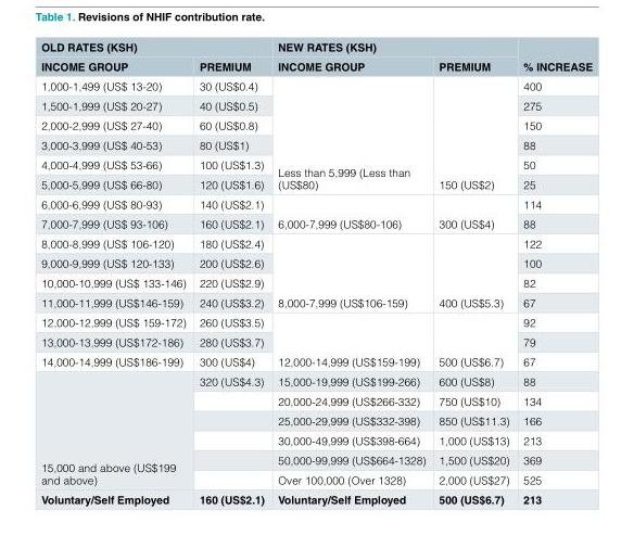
<table><thead><tr><td colspan="2">OLD RATES (KSH)</td><td colspan="2">NEW RATES (KSH)</td><td rowspan="2">% INCREASE</td></tr><tr><td>INCOME GROUP</td><td>PREMIUM</td><td>INCOME GROUP</td><td>PREMIUM</td></tr></thead><tbody><tr><td>1,000-1,499 (US$ 13-20)</td><td>30 (US$0.4)</td><td rowspan="6">Less than 5,999 (Less than (US$80)</td><td rowspan="6">150 (US$2)</td><td>400</td></tr><tr><td>1,500-1,999 (US$ 20-27)</td><td>40 (US$0.5)</td><td>275</td></tr><tr><td>2,000-2,999 (US$ 27-40)</td><td>60 (US$0.8)</td><td>150</td></tr><tr><td>3,000-3,999 (US$ 40-53)</td><td>80 (US$1)</td><td>88</td></tr><tr><td>4,000-4,999 (US$ 53-66)</td><td>100 (US$1.3)</td><td>50</td></tr><tr><td>5,000-5,999 (US$ 66-80)</td><td>120 (US$1.6)</td><td>25</td></tr><tr><td>6,000-6,999 (US$ 80-93)</td><td>140 (US$2.1)</td><td rowspan="2">6,000-7,999 (US$80-106)</td><td rowspan="2">300 (US$4)</td><td>114</td></tr><tr><td>7,000-7,999 (US$ 93-106)</td><td>160 (US$2.1)</td><td>88</td></tr><tr><td>8,000-8,999 (US$ 106-120)</td><td>180 (US$2.4)</td><td rowspan="4">8,000-7,999 (US$106-159)</td><td rowspan="4">400 (US$5.3)</td><td>122</td></tr><tr><td>9,000-9,999 (US$ 120-133)</td><td>200 (US$2.6)</td><td>100</td></tr><tr><td>10,000-10,999 (US$ 133-146)</td><td>220 (US$2.9)</td><td>82</td></tr><tr><td>11,000-11,999 (US$146-159)</td><td>240 (US$3.2)</td><td>67</td></tr><tr><td>12,000-12,999 (US$ 159-172)</td><td>260 (US$3.5)</td><td rowspan="3">12,000-14,999 (US$159-199)</td><td rowspan="3">500 (US$6.7)</td><td>92</td></tr><tr><td>13,000-13,999 (US$172-186)</td><td>280 (US$3.7)</td><td>79</td></tr><tr><td>14,000-14,999 (US$186-199)</td><td>300 (US$4)</td><td>67</td></tr><tr><td rowspan="6">15,000 and above (US$199 and above)</td><td>320 (US$4.3)</td><td>15,000-19,999 (US$199-266)</td><td>600 (US$8)</td><td>88</td></tr><tr><td></td><td>20,000-24,999 (US$266-332)</td><td>750 (US$10)</td><td>134</td></tr><tr><td></td><td>25,000-29,999 (US$332-398)</td><td>850 (US$11.3)</td><td>166</td></tr><tr><td></td><td>30,000-49,999 (US$398-664)</td><td>1,000 (US$13)</td><td>213</td></tr><tr><td></td><td>50,000-99,999 (US$664-1328)</td><td>1,500 (US$20)</td><td>369</td></tr><tr><td></td><td>Over 100,000 (Over 1328)</td><td>2,000 (US$27)</td><td>525</td></tr><tr><td>Voluntary/Self Employed</td><td>160 (US$2.1)</td><td>Voluntary/Self Employed</td><td>500 (US$6.7)</td><td>213</td></tr></tbody></table>